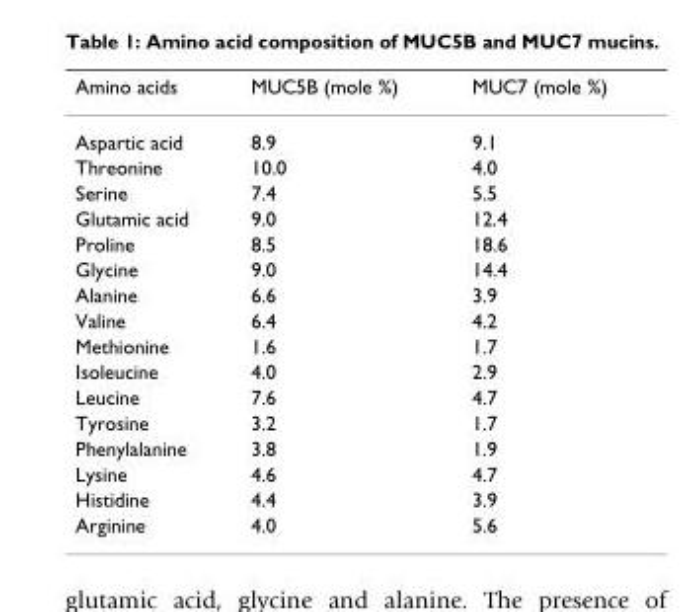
<table><thead><tr><td>Amino acids</td><td>MUC5B (mole %)</td><td>MUC7 (mole %)</td></tr></thead><tbody><tr><td>Aspartic acid</td><td>8.9</td><td>9.1</td></tr><tr><td>Threonine</td><td>10.0</td><td>4.0</td></tr><tr><td>Serine</td><td>7.4</td><td>5.5</td></tr><tr><td>Glutamic acid</td><td>9.0</td><td>12.4</td></tr><tr><td>Proline</td><td>8.5</td><td>18.6</td></tr><tr><td>Glycine</td><td>9.0</td><td>14.4</td></tr><tr><td>Alanine</td><td>6.6</td><td>3.9</td></tr><tr><td>Valine</td><td>6.4</td><td>4.2</td></tr><tr><td>Methionine</td><td>1.6</td><td>1.7</td></tr><tr><td>Isoleucine</td><td>4.0</td><td>2.9</td></tr><tr><td>Leucine</td><td>7.6</td><td>4.7</td></tr><tr><td>Tyrosine</td><td>3.2</td><td>1.7</td></tr><tr><td>Phenylalanine</td><td>3.8</td><td>1.9</td></tr><tr><td>Lysine</td><td>4.6</td><td>4.7</td></tr><tr><td>Histidine</td><td>4.4</td><td>3.9</td></tr><tr><td>Arginine</td><td>4.0</td><td>5.6</td></tr></tbody></table>